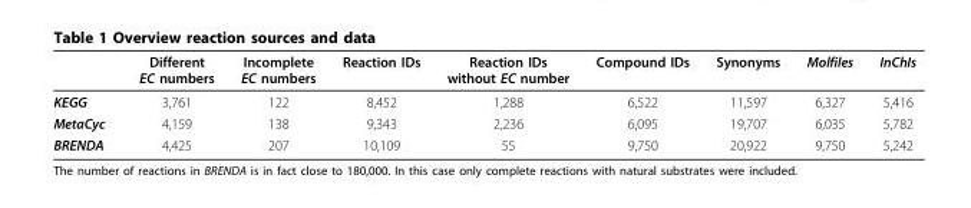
<table><thead><tr><td></td><td>Different EC numbers</td><td>Incomplete EC numbers</td><td>Reaction IDs</td><td>Reaction IDs without EC number</td><td>Compound IDs</td><td>Synonyms</td><td>Molfiles</td><td>InChIs</td></tr></thead><tbody><tr><td>KEGG</td><td>3,761</td><td>122</td><td>8,452</td><td>1,288</td><td>6,522</td><td>11,597</td><td>6,327</td><td>5,416</td></tr><tr><td>MetaCyc</td><td>4,159</td><td>138</td><td>9,343</td><td>2,236</td><td>6,095</td><td>19,707</td><td>6,035</td><td>5,782</td></tr><tr><td>BRENDA</td><td>4,425</td><td>207</td><td>10,109</td><td>55</td><td>9,750</td><td>20,922</td><td>9,750</td><td>5,242</td></tr></tbody></table>